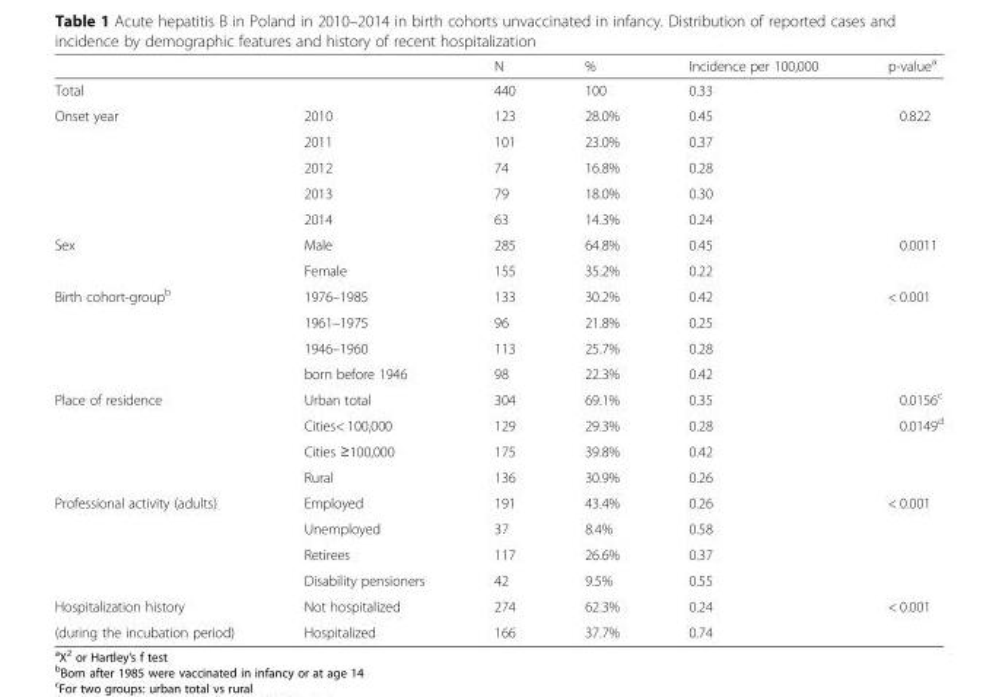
<table><thead><tr><td></td><td></td><td>N</td><td>%</td><td>Incidence per 100,000</td><td>p-value<sup>a</sup></td></tr></thead><tbody><tr><td>Total</td><td></td><td>440</td><td>100</td><td>0.33</td><td></td></tr><tr><td rowspan="5">Onset year</td><td>2010</td><td>123</td><td>28.0%</td><td>0.45</td><td>0.822</td></tr><tr><td>2011</td><td>101</td><td>23.0%</td><td>0.37</td><td></td></tr><tr><td>2012</td><td>74</td><td>16.8%</td><td>0.28</td><td></td></tr><tr><td>2013</td><td>79</td><td>18.0%</td><td>0.30</td><td></td></tr><tr><td>2014</td><td>63</td><td>14.3%</td><td>0.24</td><td></td></tr><tr><td rowspan="2">Sex</td><td>Male</td><td>285</td><td>64.8%</td><td>0.45</td><td>0.0011</td></tr><tr><td>Female</td><td>155</td><td>35.2%</td><td>0.22</td><td></td></tr><tr><td rowspan="4">Birth cohort-group<sup>b</sup></td><td>1976–1985</td><td>133</td><td>30.2%</td><td>0.42</td><td>&lt; 0.001</td></tr><tr><td>1961–1975</td><td>96</td><td>21.8%</td><td>0.25</td><td></td></tr><tr><td>1946–1960</td><td>113</td><td>25.7%</td><td>0.28</td><td></td></tr><tr><td>born before 1946</td><td>98</td><td>22.3%</td><td>0.42</td><td></td></tr><tr><td rowspan="4">Place of residence</td><td>Urban total</td><td>304</td><td>69.1%</td><td>0.35</td><td>0.0156<sup>c</sup></td></tr><tr><td>Cities&lt; 100,000</td><td>129</td><td>29.3%</td><td>0.28</td><td>0.0149<sup>d</sup></td></tr><tr><td>Cities ≥100,000</td><td>175</td><td>39.8%</td><td>0.42</td><td></td></tr><tr><td>Rural</td><td>136</td><td>30.9%</td><td>0.26</td><td></td></tr><tr><td rowspan="4">Professional activity (adults)</td><td>Employed</td><td>191</td><td>43.4%</td><td>0.26</td><td>&lt; 0.001</td></tr><tr><td>Unemployed</td><td>37</td><td>8.4%</td><td>0.58</td><td></td></tr><tr><td>Retirees</td><td>117</td><td>26.6%</td><td>0.37</td><td></td></tr><tr><td>Disability pensioners</td><td>42</td><td>9.5%</td><td>0.55</td><td></td></tr><tr><td>Hospitalization history</td><td>Not hospitalized</td><td>274</td><td>62.3%</td><td>0.24</td><td>&lt; 0.001</td></tr><tr><td>(during the incubation period)</td><td>Hospitalized</td><td>166</td><td>37.7%</td><td>0.74</td><td></td></tr></tbody></table>